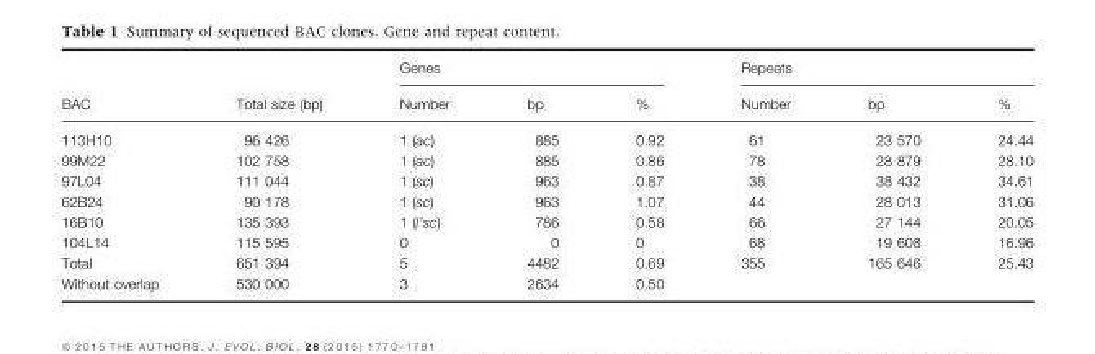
<table><thead><tr><td rowspan="2">BAC</td><td rowspan="2">Total size (bp)</td><td colspan="3">Genes</td><td colspan="3">Repeats</td></tr><tr><td>Number</td><td>bp</td><td>%</td><td>Number</td><td>bp</td><td>%</td></tr></thead><tbody><tr><td>113H10</td><td>96 426</td><td>1 (ac)</td><td>885</td><td>0.92</td><td>61</td><td>23 570</td><td>24.44</td></tr><tr><td>99M22</td><td>102 758</td><td>1 (ac)</td><td>885</td><td>0.86</td><td>78</td><td>28 879</td><td>28.10</td></tr><tr><td>97L04</td><td>111 044</td><td>1 (sc)</td><td>963</td><td>0.87</td><td>38</td><td>38 432</td><td>34.61</td></tr><tr><td>62B24</td><td>90 178</td><td>1 (sc)</td><td>963</td><td>1.07</td><td>44</td><td>28 013</td><td>31.06</td></tr><tr><td>16B10</td><td>135 393</td><td>1 (l’sc)</td><td>786</td><td>0.58</td><td>66</td><td>27 144</td><td>20.05</td></tr><tr><td>104L14</td><td>115 595</td><td>0</td><td>0</td><td>0</td><td>68</td><td>19 608</td><td>16.96</td></tr><tr><td>Total</td><td>651 394</td><td>5</td><td>4482</td><td>0.69</td><td>355</td><td>165 646</td><td>25.43</td></tr><tr><td>Without overlap</td><td>530 000</td><td>3</td><td>2634</td><td>0.50</td><td></td><td></td><td></td></tr></tbody></table>